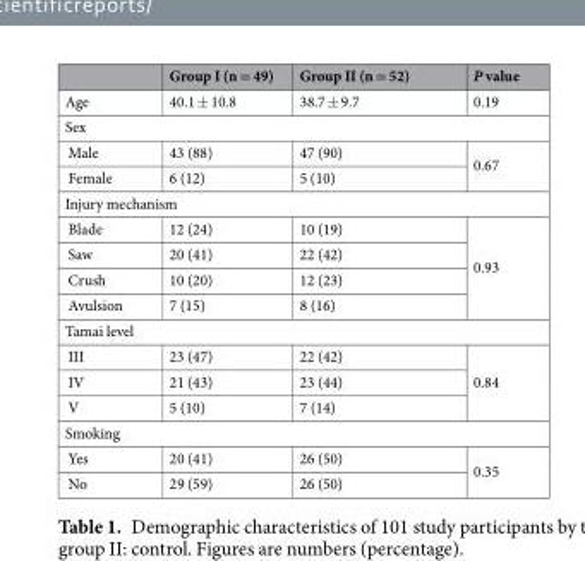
<table><thead><tr><td></td><td>Group I (n = 49)</td><td>Group II (n = 52)</td><td>P value</td></tr></thead><tbody><tr><td>Age</td><td>40.1 ± 10.8</td><td>38.7 ± 9.7</td><td>0.19</td></tr><tr><td colspan="4">Sex</td></tr><tr><td>Male</td><td>43 (88)</td><td>47 (90)</td><td rowspan="2">0.67</td></tr><tr><td>Female</td><td>6 (12)</td><td>5 (10)</td></tr><tr><td colspan="4">Injury mechanism</td></tr><tr><td>Blade</td><td>12 (24)</td><td>10 (19)</td><td rowspan="4">0.93</td></tr><tr><td>Saw</td><td>20 (41)</td><td>22 (42)</td></tr><tr><td>Crush</td><td>10 (20)</td><td>12 (23)</td></tr><tr><td>Avulsion</td><td>7 (15)</td><td>8 (16)</td></tr><tr><td colspan="4">Tamai level</td></tr><tr><td>III</td><td>23 (47)</td><td>22 (42)</td><td rowspan="3">0.84</td></tr><tr><td>IV</td><td>21 (43)</td><td>23 (44)</td></tr><tr><td>V</td><td>5 (10)</td><td>7 (14)</td></tr><tr><td colspan="4">Smoking</td></tr><tr><td>Yes</td><td>20 (41)</td><td>26 (50)</td><td rowspan="2">0.35</td></tr><tr><td>No</td><td>29 (59)</td><td>26 (50)</td></tr></tbody></table>